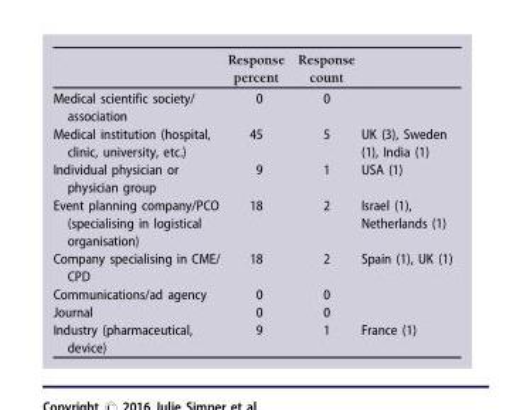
<table><thead><tr><td></td><td>Response percent</td><td>Response count</td><td></td></tr></thead><tbody><tr><td>Medical scientific society/ association</td><td>0</td><td>0</td><td></td></tr><tr><td>Medical institution (hospital, clinic, university, etc.)</td><td>45</td><td>5</td><td>UK (3), Sweden (1), India (1)</td></tr><tr><td>Individual physician or physician group</td><td>9</td><td>1</td><td>USA (1)</td></tr><tr><td>Event planning company/PCO (specialising in logistical organisation)</td><td>18</td><td>2</td><td>Israel (1), Netherlands (1)</td></tr><tr><td>Company specialising in CME/ CPD</td><td>18</td><td>2</td><td>Spain (1), UK (1)</td></tr><tr><td>Communications/ad agency</td><td>0</td><td>0</td><td></td></tr><tr><td>Journal</td><td>0</td><td>0</td><td></td></tr><tr><td>Industry (pharmaceutical, device)</td><td>9</td><td>1</td><td>France (1)</td></tr></tbody></table>